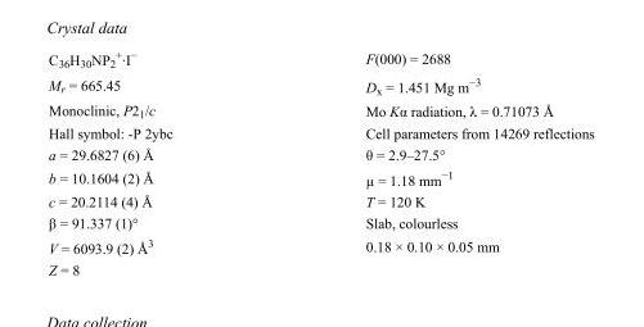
<table><tbody><tr><td>C<sub>36</sub>H<sub>30</sub>NP<sub>2</sub> <sup>+</sup>·I<sup>−</sup></td><td>F(000) = 2688</td></tr><tr><td>M<sub>r</sub> = 665.45</td><td>D<sub>x</sub> = 1.451 Mg m<sup>−3</sup></td></tr><tr><td>Monoclinic, P2<sub>1</sub>/c</td><td>Mo Kα radiation, λ = 0.71073 Å</td></tr><tr><td>Hall symbol: -P 2ybc</td><td>Cell parameters from 14269 reflections</td></tr><tr><td>a = 29.6827 (6) Å</td><td>θ = 2.9–27.5°</td></tr><tr><td>b = 10.1604 (2) Å</td><td>µ = 1.18 mm<sup>−1</sup></td></tr><tr><td>c = 20.2114 (4) Å</td><td>T = 120 K</td></tr><tr><td>β = 91.337 (1)°</td><td>Slab, colourless</td></tr><tr><td>V = 6093.9 (2) Å<sup>3</sup></td><td>0.18 × 0.10 × 0.05 mm</td></tr><tr><td>Z = 8</td><td></td></tr></tbody></table>